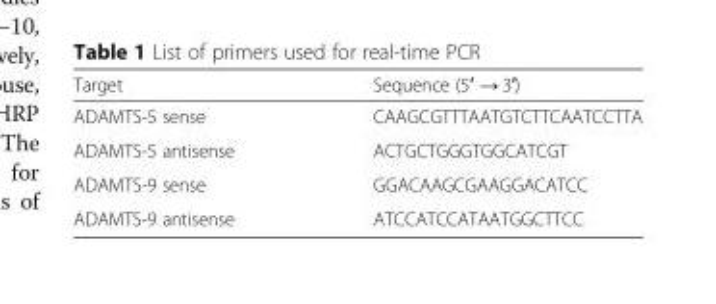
<table><thead><tr><td>Target</td><td>Sequence (5′ → 3′)</td></tr></thead><tbody><tr><td>ADAMTS-5 sense</td><td>CAAGCGTTTAATGTCTTCAATCCTTA</td></tr><tr><td>ADAMTS-5 antisense</td><td>ACTGCTGGGTGGCATCGT</td></tr><tr><td>ADAMTS-9 sense</td><td>GGACAAGCGAAGGACATCC</td></tr><tr><td>ADAMTS-9 antisense</td><td>ATCCATCCATAATGGCTTCC</td></tr></tbody></table>